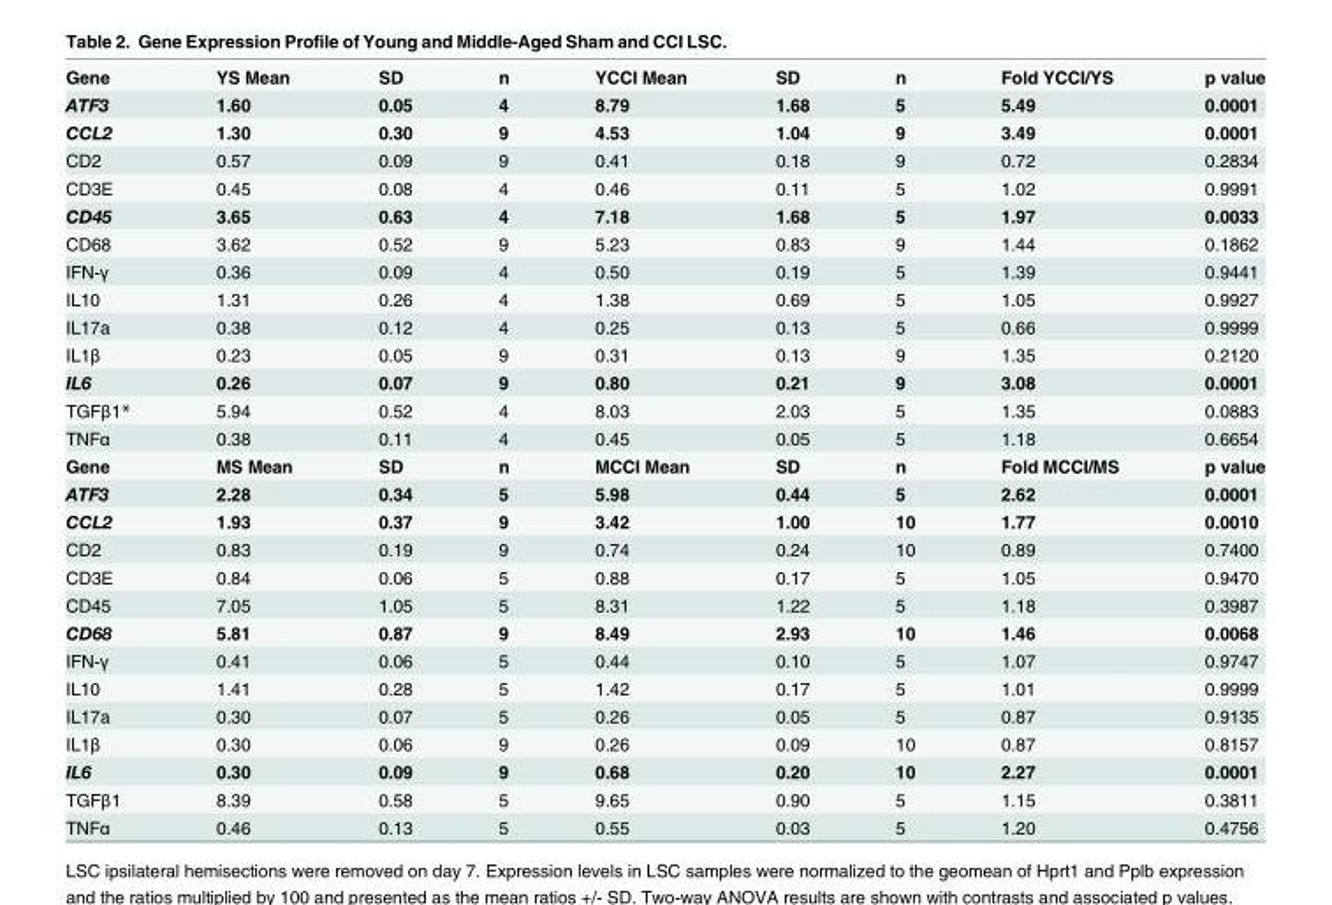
<table><tbody><tr><td>Gene</td><td>YS Mean</td><td>SD</td><td>n</td><td>YCCI Mean</td><td>SD</td><td>n</td><td>Fold YCCI/YS</td><td>p value</td></tr><tr><td>ATF3</td><td>1.60</td><td>0.05</td><td>4</td><td>8.79</td><td>1.68</td><td>5</td><td>5.49</td><td>0.0001</td></tr><tr><td>CCL2</td><td>1.30</td><td>0.30</td><td>9</td><td>4.53</td><td>1.04</td><td>9</td><td>3.49</td><td>0.0001</td></tr><tr><td>CD2</td><td>0.57</td><td>0.09</td><td>9</td><td>0.41</td><td>0.18</td><td>9</td><td>0.72</td><td>0.2834</td></tr><tr><td>CD3E</td><td>0.45</td><td>0.08</td><td>4</td><td>0.46</td><td>0.11</td><td>5</td><td>1.02</td><td>0.9991</td></tr><tr><td>CD45</td><td>3.65</td><td>0.63</td><td>4</td><td>7.18</td><td>1.68</td><td>5</td><td>1.97</td><td>0.0033</td></tr><tr><td>CD68</td><td>3.62</td><td>0.52</td><td>9</td><td>5.23</td><td>0.83</td><td>9</td><td>1.44</td><td>0.1862</td></tr><tr><td>IFN-γ</td><td>0.36</td><td>0.09</td><td>4</td><td>0.50</td><td>0.19</td><td>5</td><td>1.39</td><td>0.9441</td></tr><tr><td>IL10</td><td>1.31</td><td>0.26</td><td>4</td><td>1.38</td><td>0.69</td><td>5</td><td>1.05</td><td>0.9927</td></tr><tr><td>IL17a</td><td>0.38</td><td>0.12</td><td>4</td><td>0.25</td><td>0.13</td><td>5</td><td>0.66</td><td>0.9999</td></tr><tr><td>IL1β</td><td>0.23</td><td>0.05</td><td>9</td><td>0.31</td><td>0.13</td><td>9</td><td>1.35</td><td>0.2120</td></tr><tr><td>IL6</td><td>0.26</td><td>0.07</td><td>9</td><td>0.80</td><td>0.21</td><td>9</td><td>3.08</td><td>0.0001</td></tr><tr><td>TGFβ1*</td><td>5.94</td><td>0.52</td><td>4</td><td>8.03</td><td>2.03</td><td>5</td><td>1.35</td><td>0.0883</td></tr><tr><td>TNFα</td><td>0.38</td><td>0.11</td><td>4</td><td>0.45</td><td>0.05</td><td>5</td><td>1.18</td><td>0.6654</td></tr><tr><td>Gene</td><td>MS Mean</td><td>SD</td><td>n</td><td>MCCI Mean</td><td>SD</td><td>n</td><td>Fold MCCI/MS</td><td>p value</td></tr><tr><td>ATF3</td><td>2.28</td><td>0.34</td><td>5</td><td>5.98</td><td>0.44</td><td>5</td><td>2.62</td><td>0.0001</td></tr><tr><td>CCL2</td><td>1.93</td><td>0.37</td><td>9</td><td>3.42</td><td>1.00</td><td>10</td><td>1.77</td><td>0.0010</td></tr><tr><td>CD2</td><td>0.83</td><td>0.19</td><td>9</td><td>0.74</td><td>0.24</td><td>10</td><td>0.89</td><td>0.7400</td></tr><tr><td>CD3E</td><td>0.84</td><td>0.06</td><td>5</td><td>0.88</td><td>0.17</td><td>5</td><td>1.05</td><td>0.9470</td></tr><tr><td>CD45</td><td>7.05</td><td>1.05</td><td>5</td><td>8.31</td><td>1.22</td><td>5</td><td>1.18</td><td>0.3987</td></tr><tr><td>CD68</td><td>5.81</td><td>0.87</td><td>9</td><td>8.49</td><td>2.93</td><td>10</td><td>1.46</td><td>0.0068</td></tr><tr><td>IFN-γ</td><td>0.41</td><td>0.06</td><td>5</td><td>0.44</td><td>0.10</td><td>5</td><td>1.07</td><td>0.9747</td></tr><tr><td>IL10</td><td>1.41</td><td>0.28</td><td>5</td><td>1.42</td><td>0.17</td><td>5</td><td>1.01</td><td>0.9999</td></tr><tr><td>IL17a</td><td>0.30</td><td>0.07</td><td>5</td><td>0.26</td><td>0.05</td><td>5</td><td>0.87</td><td>0.9135</td></tr><tr><td>IL1β</td><td>0.30</td><td>0.06</td><td>9</td><td>0.26</td><td>0.09</td><td>10</td><td>0.87</td><td>0.8157</td></tr><tr><td>IL6</td><td>0.30</td><td>0.09</td><td>9</td><td>0.68</td><td>0.20</td><td>10</td><td>2.27</td><td>0.0001</td></tr><tr><td>TGFβ1</td><td>8.39</td><td>0.58</td><td>5</td><td>9.65</td><td>0.90</td><td>5</td><td>1.15</td><td>0.3811</td></tr><tr><td>TNFα</td><td>0.46</td><td>0.13</td><td>5</td><td>0.55</td><td>0.03</td><td>5</td><td>1.20</td><td>0.4756</td></tr></tbody></table>